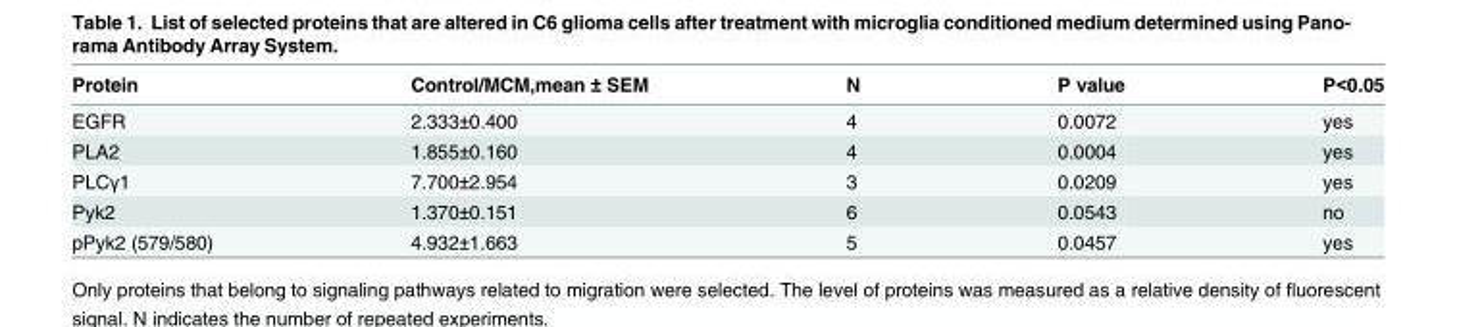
<table><thead><tr><td>Protein</td><td>Control/MCM,mean ± SEM</td><td>N</td><td>P value</td><td>P&lt;0.05</td></tr></thead><tbody><tr><td>EGFR</td><td>2.333±0.400</td><td>4</td><td>0.0072</td><td>yes</td></tr><tr><td>PLA2</td><td>1.855±0.160</td><td>4</td><td>0.0004</td><td>yes</td></tr><tr><td>PLCγ1</td><td>7.700±2.954</td><td>3</td><td>0.0209</td><td>yes</td></tr><tr><td>Pyk2</td><td>1.370±0.151</td><td>6</td><td>0.0543</td><td>no</td></tr><tr><td>pPyk2 (579/580)</td><td>4.932±1.663</td><td>5</td><td>0.0457</td><td>yes</td></tr></tbody></table>